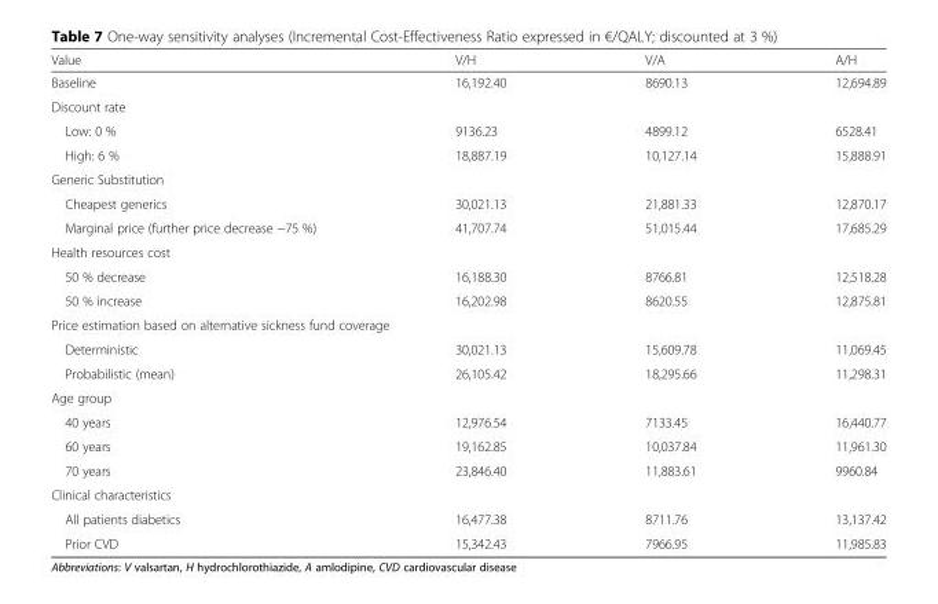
<table><thead><tr><td>Value</td><td>V/H</td><td>V/A</td><td>A/H</td></tr></thead><tbody><tr><td>Baseline</td><td>16,192.40</td><td>8690.13</td><td>12,694.89</td></tr><tr><td colspan="4">Discount rate</td></tr><tr><td>Low: 0 %</td><td>9136.23</td><td>4899.12</td><td>6528.41</td></tr><tr><td>High: 6 %</td><td>18,887.19</td><td>10,127.14</td><td>15,888.91</td></tr><tr><td colspan="4">Generic Substitution</td></tr><tr><td>Cheapest generics</td><td>30,021.13</td><td>21,881.33</td><td>12,870.17</td></tr><tr><td>Marginal price (further price decrease −75 %)</td><td>41,707.74</td><td>51,015.44</td><td>17,685.29</td></tr><tr><td colspan="4">Health resources cost</td></tr><tr><td>50 % decrease</td><td>16,188.30</td><td>8766.81</td><td>12,518.28</td></tr><tr><td>50 % increase</td><td>16,202.98</td><td>8620.55</td><td>12,875.81</td></tr><tr><td colspan="4">Price estimation based on alternative sickness fund coverage</td></tr><tr><td>Deterministic</td><td>30,021.13</td><td>15,609.78</td><td>11,069.45</td></tr><tr><td>Probabilistic (mean)</td><td>26,105.42</td><td>18,295.66</td><td>11,298.31</td></tr><tr><td colspan="4">Age group</td></tr><tr><td>40 years</td><td>12,976.54</td><td>7133.45</td><td>16,440.77</td></tr><tr><td>60 years</td><td>19,162.85</td><td>10,037.84</td><td>11,961.30</td></tr><tr><td>70 years</td><td>23,846.40</td><td>11,883.61</td><td>9960.84</td></tr><tr><td colspan="4">Clinical characteristics</td></tr><tr><td>All patients diabetics</td><td>16,477.38</td><td>8711.76</td><td>13,137.42</td></tr><tr><td>Prior CVD</td><td>15,342.43</td><td>7966.95</td><td>11,985.83</td></tr></tbody></table>